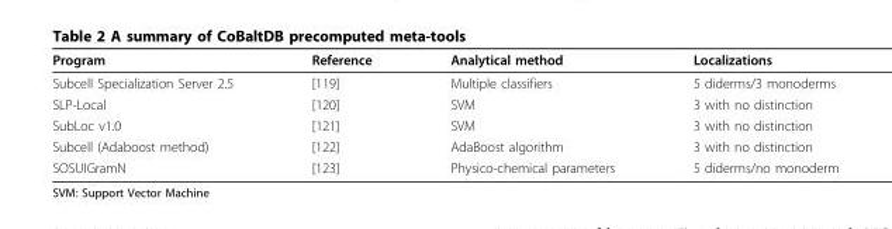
<table><thead><tr><td>Program</td><td>Reference</td><td>Analytical method</td><td>Localizations</td></tr></thead><tbody><tr><td>Subcell Specialization Server 2.5</td><td>[119]</td><td>Multiple classifiers</td><td>5 diderms/3 monoderms</td></tr><tr><td>SLP-Local</td><td>[120]</td><td>SVM</td><td>3 with no distinction</td></tr><tr><td>SubLoc v1.0</td><td>[121]</td><td>SVM</td><td>3 with no distinction</td></tr><tr><td>Subcell (Adaboost method)</td><td>[122]</td><td>AdaBoost algorithm</td><td>3 with no distinction</td></tr><tr><td>SOSUIGramN</td><td>[123]</td><td>Physico-chemical parameters</td><td>5 diderms/no monoderm</td></tr></tbody></table>